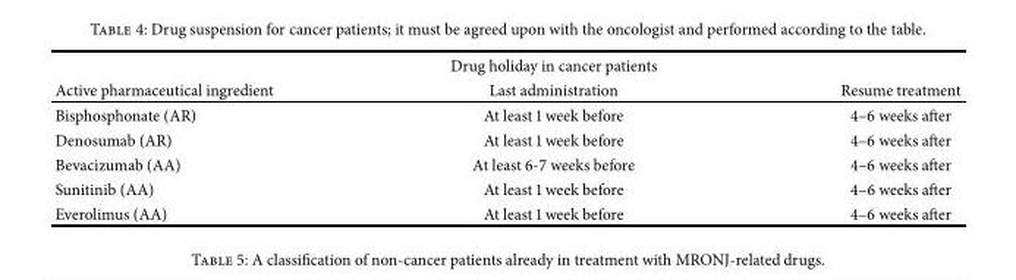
<table><thead><tr><td colspan="3">Drug holiday in cancer patients</td></tr><tr><td>Active pharmaceutical ingredient</td><td>Last administration</td><td>Resume treatment</td></tr></thead><tbody><tr><td>Bisphosphonate (AR)</td><td>At least 1 week before</td><td>4–6 weeks after</td></tr><tr><td>Denosumab (AR)</td><td>At least 1 week before</td><td>4–6 weeks after</td></tr><tr><td>Bevacizumab (AA)</td><td>At least 6-7 weeks before</td><td>4–6 weeks after</td></tr><tr><td>Sunitinib (AA)</td><td>At least 1 week before</td><td>4–6 weeks after</td></tr><tr><td>Everolimus (AA)</td><td>At least 1 week before</td><td>4–6 weeks after</td></tr></tbody></table>